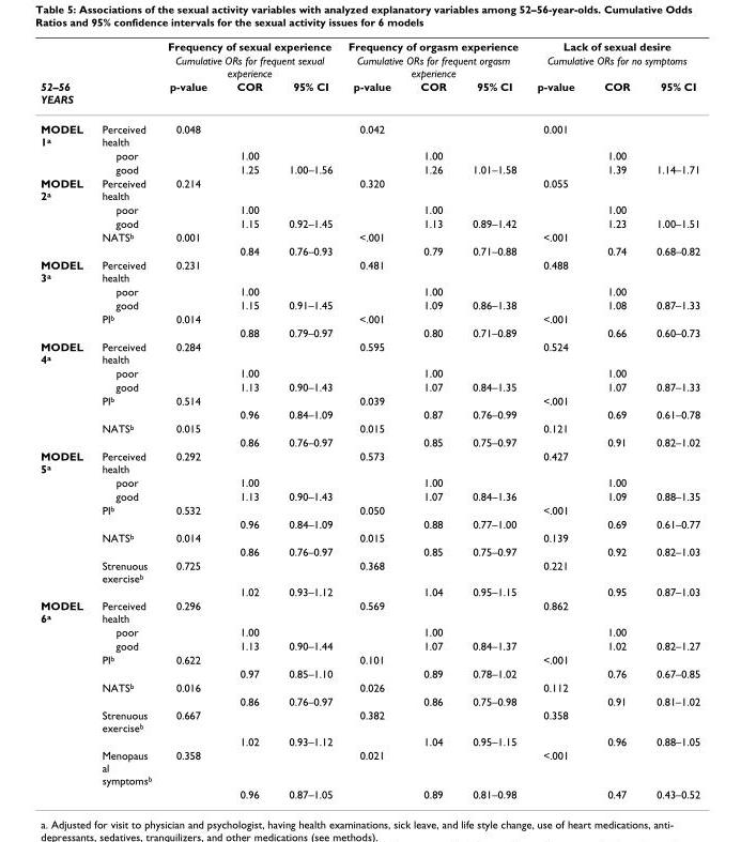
<table><thead><tr><td rowspan="3">52–56 YEARS</td><td rowspan="3"></td><td rowspan="2" colspan="3">Frequency of sexual experience Cumulative ORs for frequent sexual experience</td><td rowspan="2" colspan="3">Frequency of orgasm experience Cumulative ORs for frequent orgasm experience</td><td rowspan="2" colspan="3">Lack of sexual desire Cumulative ORs for no symptoms</td></tr><tr></tr><tr><td>p-value</td><td>COR</td><td>95% CI</td><td>p-value</td><td>COR</td><td>95% CI</td><td>p-value</td><td>COR</td><td>95% CI</td></tr></thead><tbody><tr><td rowspan="3">MODEL 1<sup>a</sup></td><td>Perceived health</td><td>0.048</td><td></td><td></td><td>0.042</td><td></td><td></td><td>0.001</td><td></td><td></td></tr><tr><td>poor</td><td></td><td>1.00</td><td></td><td></td><td>1.00</td><td></td><td></td><td>1.00</td><td></td></tr><tr><td>good</td><td></td><td>1.25</td><td>1.00–1.56</td><td></td><td>1.26</td><td>1.01–1.58</td><td></td><td>1.39</td><td>1.14–1.71</td></tr><tr><td rowspan="5">MODEL 2<sup>a</sup></td><td>Perceived health</td><td>0.214</td><td></td><td></td><td>0.320</td><td></td><td></td><td>0.055</td><td></td><td></td></tr><tr><td>poor</td><td></td><td>1.00</td><td></td><td></td><td>1.00</td><td></td><td></td><td>1.00</td><td></td></tr><tr><td>good</td><td></td><td>1.15</td><td>0.92–1.45</td><td></td><td>1.13</td><td>0.89–1.42</td><td></td><td>1.23</td><td>1.00–1.51</td></tr><tr><td>NATS<sup>b</sup></td><td>0.001</td><td></td><td></td><td>&lt;.001</td><td></td><td></td><td>&lt;.001</td><td></td><td></td></tr><tr><td></td><td></td><td>0.84</td><td>0.76–0.93</td><td></td><td>0.79</td><td>0.71–0.88</td><td></td><td>0.74</td><td>0.68–0.82</td></tr><tr><td rowspan="5">MODEL 3<sup>a</sup></td><td>Perceived health</td><td>0.231</td><td></td><td></td><td>0.481</td><td></td><td></td><td>0.488</td><td></td><td></td></tr><tr><td>poor</td><td></td><td>1.00</td><td></td><td></td><td>1.00</td><td></td><td></td><td>1.00</td><td></td></tr><tr><td>good</td><td></td><td>1.15</td><td>0.91–1.45</td><td></td><td>1.09</td><td>0.86–1.38</td><td></td><td>1.08</td><td>0.87–1.33</td></tr><tr><td>PI<sup>b</sup></td><td>0.014</td><td></td><td></td><td>&lt;.001</td><td></td><td></td><td>&lt;.001</td><td></td><td></td></tr><tr><td></td><td></td><td>0.88</td><td>0.79–0.97</td><td></td><td>0.80</td><td>0.71–0.89</td><td></td><td>0.66</td><td>0.60–0.73</td></tr><tr><td rowspan="7">MODEL 4<sup>a</sup></td><td>Perceived health</td><td>0.284</td><td></td><td></td><td>0.595</td><td></td><td></td><td>0.524</td><td></td><td></td></tr><tr><td>poor</td><td></td><td>1.00</td><td></td><td></td><td>1.00</td><td></td><td></td><td>1.00</td><td></td></tr><tr><td>good</td><td></td><td>1.13</td><td>0.90–1.43</td><td></td><td>1.07</td><td>0.84–1.35</td><td></td><td>1.07</td><td>0.87–1.33</td></tr><tr><td>PI<sup>b</sup></td><td>0.514</td><td></td><td></td><td>0.039</td><td></td><td></td><td>&lt;.001</td><td></td><td></td></tr><tr><td></td><td></td><td>0.96</td><td>0.84–1.09</td><td></td><td>0.87</td><td>0.76–0.99</td><td></td><td>0.69</td><td>0.61–0.78</td></tr><tr><td>NATS<sup>b</sup></td><td>0.015</td><td></td><td></td><td>0.015</td><td></td><td></td><td>0.121</td><td></td><td></td></tr><tr><td></td><td></td><td>0.86</td><td>0.76–0.97</td><td></td><td>0.85</td><td>0.75–0.97</td><td></td><td>0.91</td><td>0.82–1.02</td></tr><tr><td rowspan="9">MODEL 5<sup>a</sup></td><td>Perceived health</td><td>0.292</td><td></td><td></td><td>0.573</td><td></td><td></td><td>0.427</td><td></td><td></td></tr><tr><td>poor</td><td></td><td>1.00</td><td></td><td></td><td>1.00</td><td></td><td></td><td>1.00</td><td></td></tr><tr><td>good</td><td></td><td>1.13</td><td>0.90–1.43</td><td></td><td>1.07</td><td>0.84–1.36</td><td></td><td>1.09</td><td>0.88–1.35</td></tr><tr><td>PI<sup>b</sup></td><td>0.532</td><td></td><td></td><td>0.050</td><td></td><td></td><td>&lt;.001</td><td></td><td></td></tr><tr><td></td><td></td><td>0.96</td><td>0.84–1.09</td><td></td><td>0.88</td><td>0.77–1.00</td><td></td><td>0.69</td><td>0.61–0.77</td></tr><tr><td>NATS<sup>b</sup></td><td>0.014</td><td></td><td></td><td>0.015</td><td></td><td></td><td>0.139</td><td></td><td></td></tr><tr><td></td><td></td><td>0.86</td><td>0.76–0.97</td><td></td><td>0.85</td><td>0.75–0.97</td><td></td><td>0.92</td><td>0.82–1.03</td></tr><tr><td>Strenuous exercise<sup>b</sup></td><td>0.725</td><td></td><td></td><td>0.368</td><td></td><td></td><td>0.221</td><td></td><td></td></tr><tr><td></td><td></td><td>1.02</td><td>0.93–1.12</td><td></td><td>1.04</td><td>0.95–1.15</td><td></td><td>0.95</td><td>0.87–1.03</td></tr><tr><td rowspan="11">MODEL 6<sup>a</sup></td><td>Perceived health</td><td>0.296</td><td></td><td></td><td>0.569</td><td></td><td></td><td>0.862</td><td></td><td></td></tr><tr><td>poor</td><td></td><td>1.00</td><td></td><td></td><td>1.00</td><td></td><td></td><td>1.00</td><td></td></tr><tr><td>good</td><td></td><td>1.13</td><td>0.90–1.44</td><td></td><td>1.07</td><td>0.84–1.37</td><td></td><td>1.02</td><td>0.82–1.27</td></tr><tr><td>PI<sup>b</sup></td><td>0.622</td><td></td><td></td><td>0.101</td><td></td><td></td><td>&lt;.001</td><td></td><td></td></tr><tr><td></td><td></td><td>0.97</td><td>0.85–1.10</td><td></td><td>0.89</td><td>0.78–1.02</td><td></td><td>0.76</td><td>0.67–0.85</td></tr><tr><td>NATS<sup>b</sup></td><td>0.016</td><td></td><td></td><td>0.026</td><td></td><td></td><td>0.112</td><td></td><td></td></tr><tr><td></td><td></td><td>0.86</td><td>0.76–0.97</td><td></td><td>0.86</td><td>0.75–0.98</td><td></td><td>0.91</td><td>0.81–1.02</td></tr><tr><td>Strenuous exercise<sup>b</sup></td><td>0.667</td><td></td><td></td><td>0.382</td><td></td><td></td><td>0.358</td><td></td><td></td></tr><tr><td></td><td></td><td>1.02</td><td>0.93–1.12</td><td></td><td>1.04</td><td>0.95–1.15</td><td></td><td>0.96</td><td>0.88–1.05</td></tr><tr><td>Menopaus al symptoms<sup>b</sup></td><td>0.358</td><td></td><td></td><td>0.021</td><td></td><td></td><td>&lt;.001</td><td></td><td></td></tr><tr><td></td><td></td><td>0.96</td><td>0.87–1.05</td><td></td><td>0.89</td><td>0.81–0.98</td><td></td><td>0.47</td><td>0.43–0.52</td></tr></tbody></table>